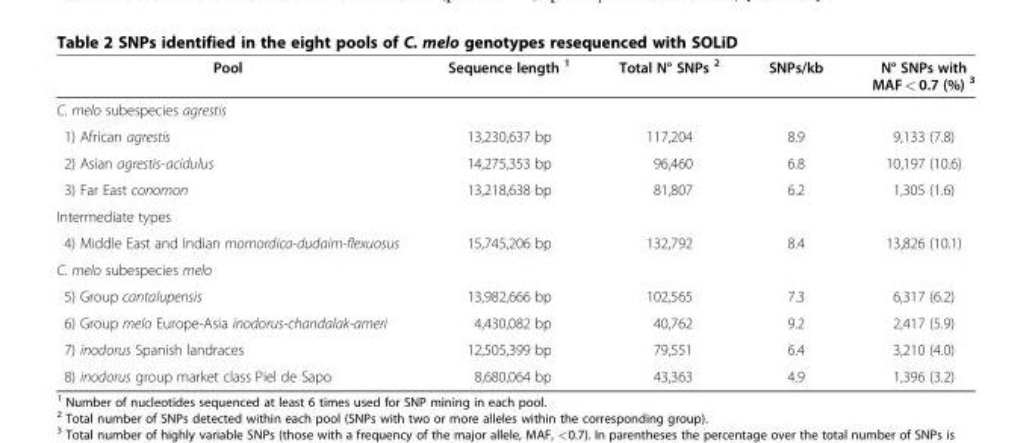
<table><thead><tr><td>Pool</td><td>Sequence length <sup>1</sup></td><td>Total N° SNPs <sup>2</sup></td><td>SNPs/kb</td><td>N° SNPs with MAF &lt; 0.7 (%) <sup>3</sup></td></tr></thead><tbody><tr><td colspan="5">C. melo subespecies agrestis</td></tr><tr><td>1) African agrestis</td><td>13,230,637 bp</td><td>117,204</td><td>8.9</td><td>9,133 (7.8)</td></tr><tr><td>2) Asian agrestis-acidulus</td><td>14,275,353 bp</td><td>96,460</td><td>6.8</td><td>10,197 (10.6)</td></tr><tr><td>3) Far East conomon</td><td>13,218,638 bp</td><td>81,807</td><td>6.2</td><td>1,305 (1.6)</td></tr><tr><td colspan="5">Intermediate types</td></tr><tr><td>4) Middle East and Indian momordica-dudaim-flexuosus</td><td>15,745,206 bp</td><td>132,792</td><td>8.4</td><td>13,826 (10.1)</td></tr><tr><td colspan="5">C. melo subespecies melo</td></tr><tr><td>5) Group cantalupensis</td><td>13,982,666 bp</td><td>102,565</td><td>7.3</td><td>6,317 (6.2)</td></tr><tr><td>6) Group melo Europe-Asia inodorus-chandalak-ameri</td><td>4,430,082 bp</td><td>40,762</td><td>9.2</td><td>2,417 (5.9)</td></tr><tr><td>7) inodorus Spanish landraces</td><td>12,505,399 bp</td><td>79,551</td><td>6.4</td><td>3,210 (4.0)</td></tr><tr><td>8) inodorus group market class Piel de Sapo</td><td>8,680,064 bp</td><td>43,363</td><td>4.9</td><td>1,396 (3.2)</td></tr></tbody></table>